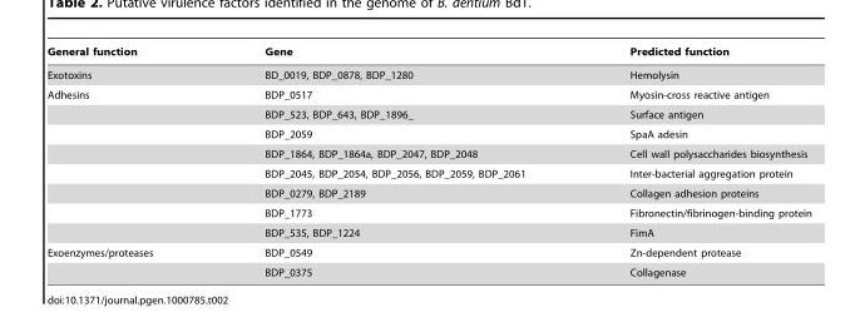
<table><thead><tr><td>General function</td><td>Gene</td><td>Predicted function</td></tr></thead><tbody><tr><td>Exotoxins</td><td>BD_0019, BDP_0878, BDP_1280</td><td>Hemolysin</td></tr><tr><td rowspan="8">Adhesins</td><td>BDP_0517</td><td>Myosin-cross reactive antigen</td></tr><tr><td>BDP_523, BDP_643, BDP_1896_</td><td>Surface antigen</td></tr><tr><td>BDP_2059</td><td>SpaA adesin</td></tr><tr><td>BDP_1864, BDP_1864a, BDP_2047, BDP_2048</td><td>Cell wall polysaccharides biosynthesis</td></tr><tr><td>BDP_2045, BDP_2054, BDP_2056, BDP_2059, BDP_2061</td><td>Inter-bacterial aggregation protein</td></tr><tr><td>BDP_0279, BDP_2189</td><td>Collagen adhesion proteins</td></tr><tr><td>BDP_1773</td><td>Fibronectin/fibrinogen-binding protein</td></tr><tr><td>BDP_535, BDP_1224</td><td>FimA</td></tr><tr><td rowspan="2">Exoenzymes/proteases</td><td>BDP_0549</td><td>Zn-dependent protease</td></tr><tr><td>BDP_0375</td><td>Collagenase</td></tr></tbody></table>